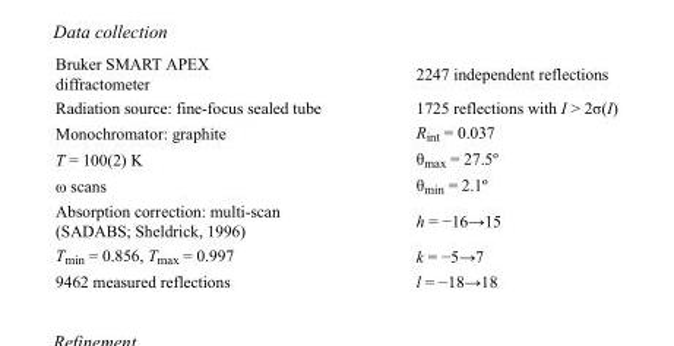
<table><tbody><tr><td>Bruker SMART APEX diffractometer</td><td>2247 independent reflections</td></tr><tr><td>Radiation source: fine-focus sealed tube</td><td>1725 reflections with I &gt; 2σ(I)</td></tr><tr><td>Monochromator: graphite</td><td>R<sub>int</sub> = 0.037</td></tr><tr><td>T = 100(2) K</td><td>θ<sub>max</sub> = 27.5º</td></tr><tr><td>ω scans</td><td>θ<sub>min</sub> = 2.1º</td></tr><tr><td>Absorption correction: multi-scan (SADABS; Sheldrick, 1996)</td><td>h = −16→15</td></tr><tr><td>T<sub>min</sub> = 0.856, T<sub>max</sub> = 0.997</td><td>k = −5→7</td></tr><tr><td>9462 measured reflections</td><td>l = −18→18</td></tr></tbody></table>